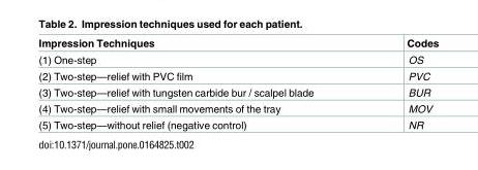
<table><thead><tr><td>Impression Techniques</td><td>Codes</td></tr></thead><tbody><tr><td>(1) One-step</td><td>OS</td></tr><tr><td>(2) Two-step—relief with PVC film</td><td>PVC</td></tr><tr><td>(3) Two-step—relief with tungsten carbide bur / scalpel blade</td><td>BUR</td></tr><tr><td>(4) Two-step—relief with small movements of the tray</td><td>MOV</td></tr><tr><td>(5) Two-step—without relief (negative control)</td><td>NR</td></tr></tbody></table>